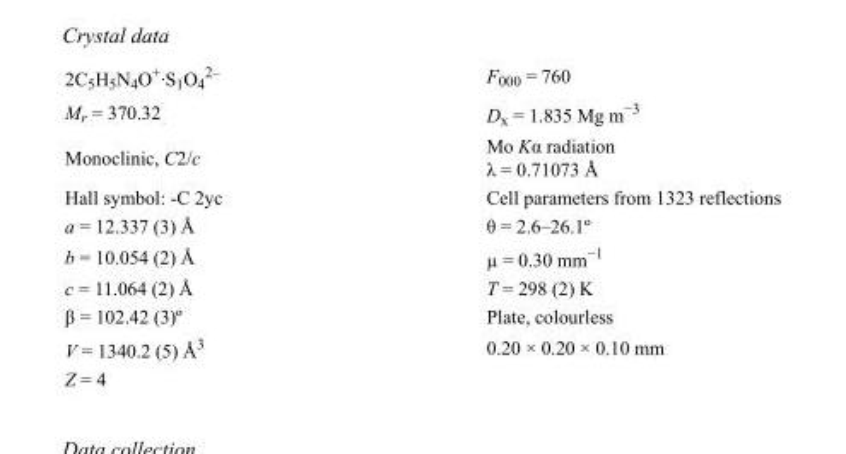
<table><tbody><tr><td>2C<sub>5</sub>H<sub>5</sub>N<sub>4</sub>O<sup>+</sup>·S<sub>1</sub>O<sub>4</sub> <sup>2–</sup></td><td>F<sub>000</sub> = 760</td></tr><tr><td>M<sub>r</sub> = 370.32</td><td>D<sub>x</sub> = 1.835 Mg m<sup>−3</sup></td></tr><tr><td>Monoclinic, C2/c</td><td>Mo Kα radiation λ = 0.71073 Å</td></tr><tr><td>Hall symbol: -C 2yc</td><td>Cell parameters from 1323 reflections</td></tr><tr><td>a = 12.337 (3) Å</td><td>θ = 2.6–26.1º</td></tr><tr><td>b = 10.054 (2) Å</td><td>µ = 0.30 mm<sup>−1</sup></td></tr><tr><td>c = 11.064 (2) Å</td><td>T = 298 (2) K</td></tr><tr><td>β = 102.42 (3)º</td><td>Plate, colourless</td></tr><tr><td>V = 1340.2 (5) Å<sup>3</sup></td><td>0.20 × 0.20 × 0.10 mm</td></tr><tr><td>Z = 4</td><td></td></tr></tbody></table>